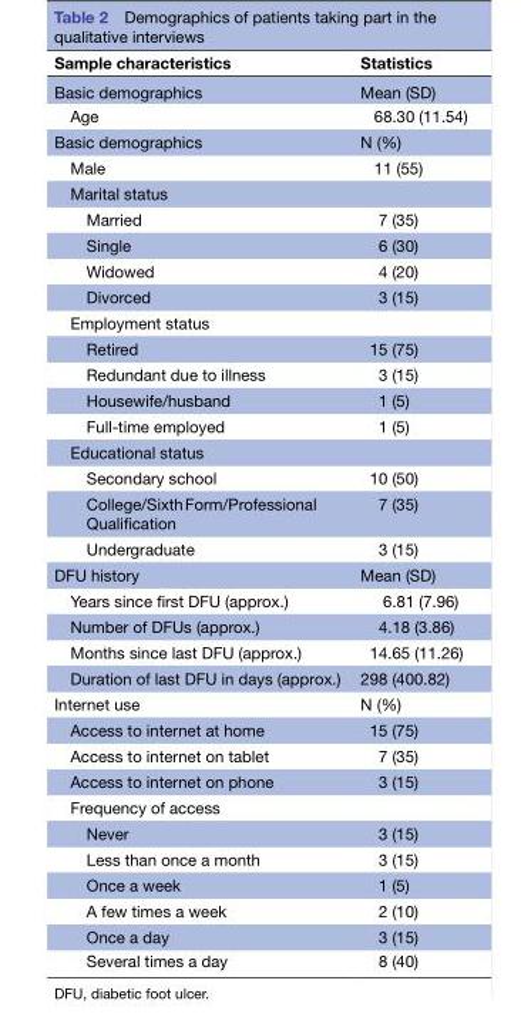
<table><thead><tr><td>Sample characteristics</td><td>Statistics</td></tr></thead><tbody><tr><td>Basic demographics</td><td>Mean (SD)</td></tr><tr><td>Age</td><td>68.30 (11.54)</td></tr><tr><td>Basic demographics</td><td>N (%)</td></tr><tr><td>Male</td><td>11 (55)</td></tr><tr><td colspan="2">Marital status</td></tr><tr><td>Married</td><td>7 (35)</td></tr><tr><td>Single</td><td>6 (30)</td></tr><tr><td>Widowed</td><td>4 (20)</td></tr><tr><td>Divorced</td><td>3 (15)</td></tr><tr><td colspan="2">Employment status</td></tr><tr><td>Retired</td><td>15 (75)</td></tr><tr><td>Redundant due to illness</td><td>3 (15)</td></tr><tr><td>Housewife/husband</td><td>1 (5)</td></tr><tr><td>Full-time employed</td><td>1 (5)</td></tr><tr><td colspan="2">Educational status</td></tr><tr><td>Secondary school</td><td>10 (50)</td></tr><tr><td>College/Sixth Form/Professional Qualification</td><td>7 (35)</td></tr><tr><td>Undergraduate</td><td>3 (15)</td></tr><tr><td>DFU history</td><td>Mean (SD)</td></tr><tr><td>Years since first DFU (approx.)</td><td>6.81 (7.96)</td></tr><tr><td>Number of DFUs (approx.)</td><td>4.18 (3.86)</td></tr><tr><td>Months since last DFU (approx.)</td><td>14.65 (11.26)</td></tr><tr><td>Duration of last DFU in days (approx.)</td><td>298 (400.82)</td></tr><tr><td>Internet use</td><td>N (%)</td></tr><tr><td>Access to internet at home</td><td>15 (75)</td></tr><tr><td>Access to internet on tablet</td><td>7 (35)</td></tr><tr><td>Access to internet on phone</td><td>3 (15)</td></tr><tr><td colspan="2">Frequency of access</td></tr><tr><td>Never</td><td>3 (15)</td></tr><tr><td>Less than once a month</td><td>3 (15)</td></tr><tr><td>Once a week</td><td>1 (5)</td></tr><tr><td>A few times a week</td><td>2 (10)</td></tr><tr><td>Once a day</td><td>3 (15)</td></tr><tr><td>Several times a day</td><td>8 (40)</td></tr></tbody></table>